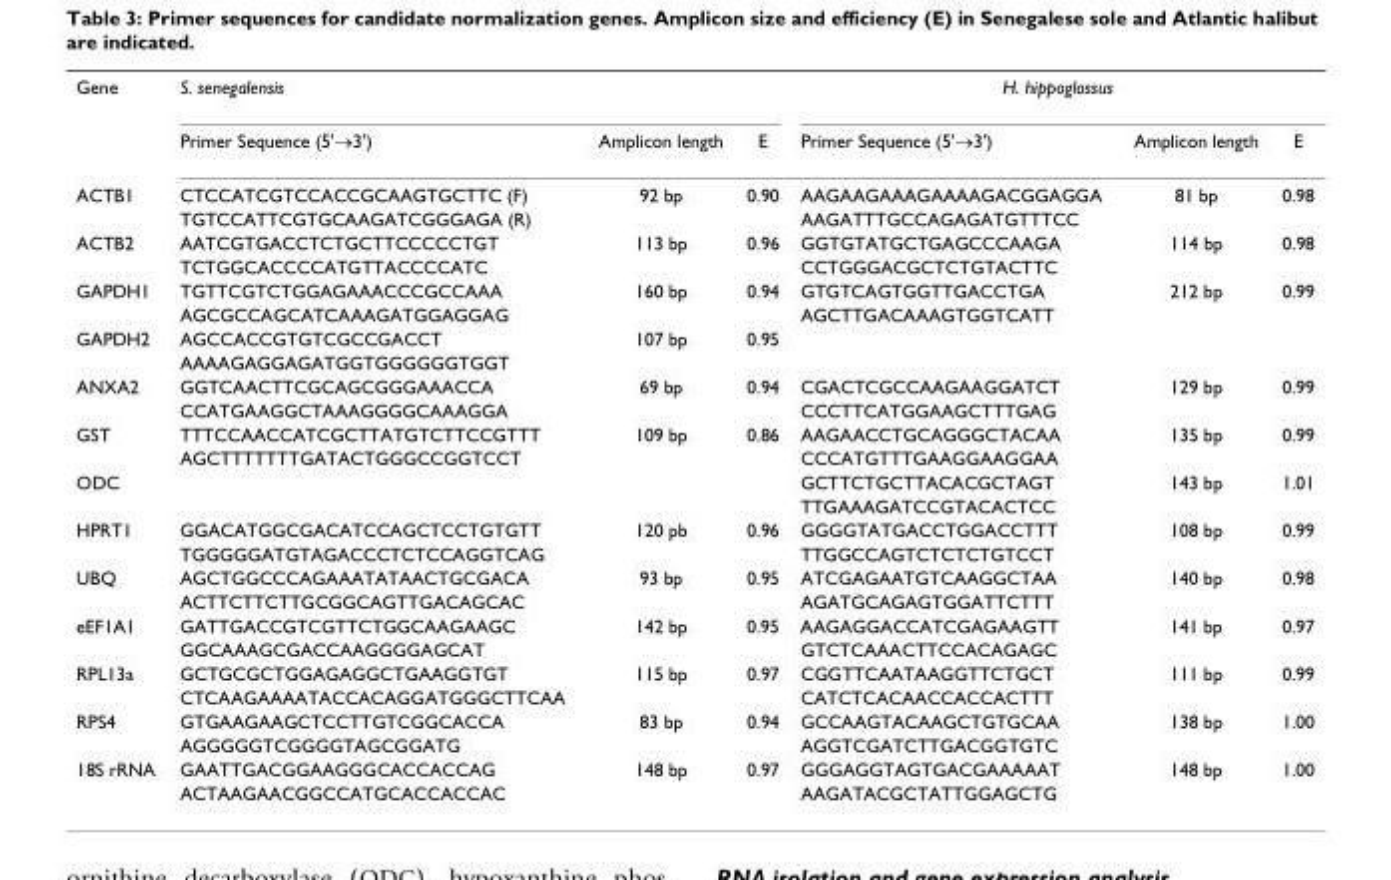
<table><tbody><tr><td rowspan="2">Gene</td><td colspan="3">S. senegalensis</td><td colspan="3">H. hippoglossus</td></tr><tr><td>Primer Sequence (5&#x27;→3&#x27;)</td><td>Amplicon length</td><td>E</td><td>Primer Sequence (5&#x27;→3&#x27;)</td><td>Amplicon length</td><td>E</td></tr><tr><td rowspan="2">ACTB1</td><td>CTCCATCGTCCACCGCAAGTGCTTC (F)</td><td>92 bp</td><td>0.90</td><td>AAGAAGAAAGAAAAGACGGAGGA</td><td>81 bp</td><td>0.98</td></tr><tr><td>TGTCCATTCGTGCAAGATCGGGAGA (R)</td><td></td><td></td><td>AAGATTTGCCAGAGATGTTTCC</td><td></td><td></td></tr><tr><td rowspan="2">ACTB2</td><td>AATCGTGACCTCTGCTTCCCCCTGT</td><td>113 bp</td><td>0.96</td><td>GGTGTATGCTGAGCCCAAGA</td><td>114 bp</td><td>0.98</td></tr><tr><td>TCTGGCACCCCATGTTACCCCATC</td><td></td><td></td><td>CCTGGGACGCTCTGTACTTC</td><td></td><td></td></tr><tr><td rowspan="2">GAPDH1</td><td>TGTTCGTCTGGAGAAACCCGCCAAA</td><td>160 bp</td><td>0.94</td><td>GTGTCAGTGGTTGACCTGA</td><td>212 bp</td><td>0.99</td></tr><tr><td>AGCGCCAGCATCAAAGATGGAGGAG</td><td></td><td></td><td>AGCTTGACAAAGTGGTCATT</td><td></td><td></td></tr><tr><td rowspan="2">GAPDH2</td><td>AGCCACCGTGTCGCCGACCT</td><td>107 bp</td><td>0.95</td><td></td><td></td><td></td></tr><tr><td>AAAAGAGGAGATGGTGGGGGGTGGT</td><td></td><td></td><td></td><td></td><td></td></tr><tr><td rowspan="2">ANXA2</td><td>GGTCAACTTCGCAGCGGGAAACCA</td><td>69 bp</td><td>0.94</td><td>CGACTCGCCAAGAAGGATCT</td><td>129 bp</td><td>0.99</td></tr><tr><td>CCATGAAGGCTAAAGGGGCAAAGGA</td><td></td><td></td><td>CCCTTCATGGAAGCTTTGAG</td><td></td><td></td></tr><tr><td rowspan="2">GST</td><td>TTTCCAACCATCGCTTATGTCTTCCGTTT</td><td>109 bp</td><td>0.86</td><td>AAGAACCTGCAGGGCTACAA</td><td>135 bp</td><td>0.99</td></tr><tr><td>AGCTTTTTTTGATACTGGGCCGGTCCT</td><td></td><td></td><td>CCCATGTTTGAAGGAAGGAA</td><td></td><td></td></tr><tr><td rowspan="2">ODC</td><td></td><td></td><td></td><td>GCTTCTGCTTACACGCTAGT</td><td>143 bp</td><td>1.01</td></tr><tr><td></td><td></td><td></td><td>TTGAAAGATCCGTACACTCC</td><td></td><td></td></tr><tr><td rowspan="2">HPRT1</td><td>GGACATGGCGACATCCAGCTCCTGTGTT</td><td>120 pb</td><td>0.96</td><td>GGGGTATGACCTGGACCTTT</td><td>108 bp</td><td>0.99</td></tr><tr><td>TGGGGGATGTAGACCCTCTCCAGGTCAG</td><td></td><td></td><td>TTGGCCAGTCTCTCTGTCCT</td><td></td><td></td></tr><tr><td rowspan="2">UBQ</td><td>AGCTGGCCCAGAAATATAACTGCGACA</td><td>93 bp</td><td>0.95</td><td>ATCGAGAATGTCAAGGCTAA</td><td>140 bp</td><td>0.98</td></tr><tr><td>ACTTCTTCTTGCGGCAGTTGACAGCAC</td><td></td><td></td><td>AGATGCAGAGTGGATTCTTT</td><td></td><td></td></tr><tr><td rowspan="2">eEF1A1</td><td>GATTGACCGTCGTTCTGGCAAGAAGC</td><td>142 bp</td><td>0.95</td><td>AAGAGGACCATCGAGAAGTT</td><td>141 bp</td><td>0.97</td></tr><tr><td>GGCAAAGCGACCAAGGGGAGCAT</td><td></td><td></td><td>GTCTCAAACTTCCACAGAGC</td><td></td><td></td></tr><tr><td rowspan="2">RPL13a</td><td>GCTGCGCTGGAGAGGCTGAAGGTGT</td><td>115 bp</td><td>0.97</td><td>CGGTTCAATAAGGTTCTGCT</td><td>111 bp</td><td>0.99</td></tr><tr><td>CTCAAGAAAATACCACAGGATGGGCTTCAA</td><td></td><td></td><td>CATCTCACAACCACCACTTT</td><td></td><td></td></tr><tr><td rowspan="2">RPS4</td><td>GTGAAGAAGCTCCTTGTCGGCACCA</td><td>83 bp</td><td>0.94</td><td>GCCAAGTACAAGCTGTGCAA</td><td>138 bp</td><td>1.00</td></tr><tr><td>AGGGGGTCGGGGTAGCGGATG</td><td></td><td></td><td>AGGTCGATCTTGACGGTGTC</td><td></td><td></td></tr><tr><td rowspan="2">18S rRNA</td><td>GAATTGACGGAAGGGCACCACCAG</td><td>148 bp</td><td>0.97</td><td>GGGAGGTAGTGACGAAAAAT</td><td>148 bp</td><td>1.00</td></tr><tr><td>ACTAAGAACGGCCATGCACCACCAC</td><td></td><td></td><td>AAGATACGCTATTGGAGCTG</td><td></td><td></td></tr></tbody></table>